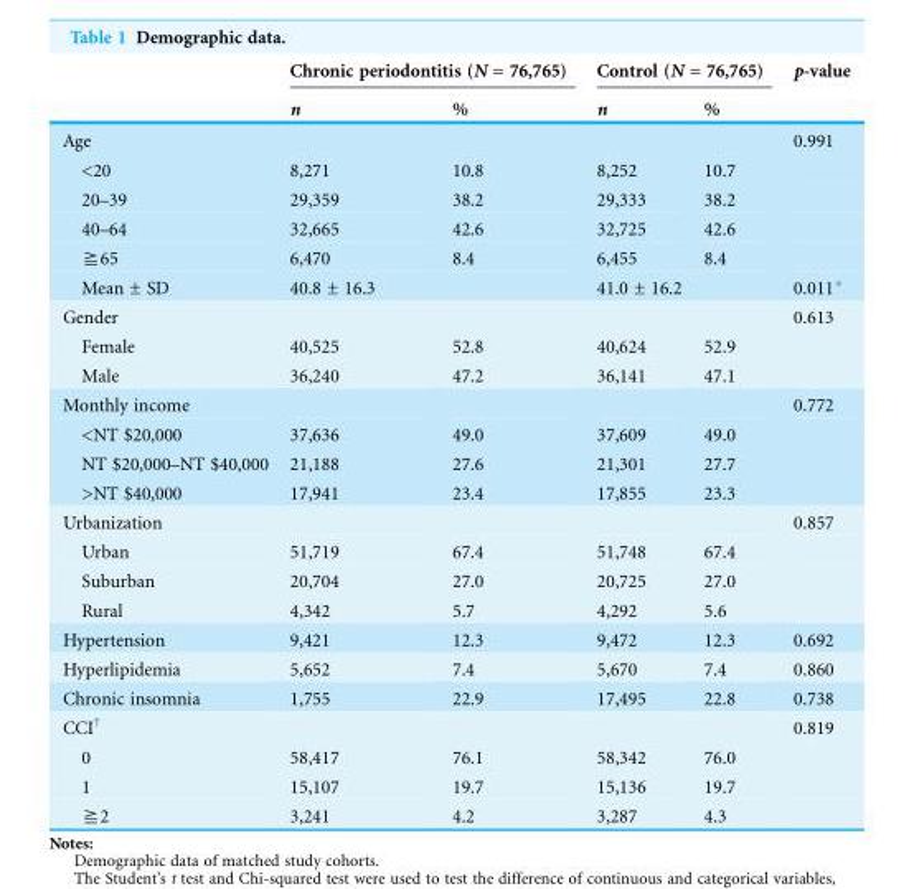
<table><thead><tr><td rowspan="2"></td><td colspan="2">Chronic periodontitis (N = 76,765)</td><td colspan="2">Control (N = 76,765)</td><td rowspan="2">p-value</td></tr><tr><td>n</td><td>%</td><td>n</td><td>%</td></tr></thead><tbody><tr><td>Age</td><td></td><td></td><td></td><td></td><td>0.991</td></tr><tr><td>&lt;20</td><td>8,271</td><td>10.8</td><td>8,252</td><td>10.7</td><td></td></tr><tr><td>20–39</td><td>29,359</td><td>38.2</td><td>29,333</td><td>38.2</td><td></td></tr><tr><td>40–64</td><td>32,665</td><td>42.6</td><td>32,725</td><td>42.6</td><td></td></tr><tr><td>≧65</td><td>6,470</td><td>8.4</td><td>6,455</td><td>8.4</td><td></td></tr><tr><td>Mean ± SD</td><td colspan="2">40.8 ± 16.3</td><td colspan="2">41.0 ± 16.2</td><td>0.011*</td></tr><tr><td>Gender</td><td></td><td></td><td></td><td></td><td>0.613</td></tr><tr><td>Female</td><td>40,525</td><td>52.8</td><td>40,624</td><td>52.9</td><td></td></tr><tr><td>Male</td><td>36,240</td><td>47.2</td><td>36,141</td><td>47.1</td><td></td></tr><tr><td>Monthly income</td><td></td><td></td><td></td><td></td><td>0.772</td></tr><tr><td>&lt;NT $20,000</td><td>37,636</td><td>49.0</td><td>37,609</td><td>49.0</td><td></td></tr><tr><td>NT $20,000–NT $40,000</td><td>21,188</td><td>27.6</td><td>21,301</td><td>27.7</td><td></td></tr><tr><td>&gt;NT $40,000</td><td>17,941</td><td>23.4</td><td>17,855</td><td>23.3</td><td></td></tr><tr><td>Urbanization</td><td></td><td></td><td></td><td></td><td>0.857</td></tr><tr><td>Urban</td><td>51,719</td><td>67.4</td><td>51,748</td><td>67.4</td><td></td></tr><tr><td>Suburban</td><td>20,704</td><td>27.0</td><td>20,725</td><td>27.0</td><td></td></tr><tr><td>Rural</td><td>4,342</td><td>5.7</td><td>4,292</td><td>5.6</td><td></td></tr><tr><td>Hypertension</td><td>9,421</td><td>12.3</td><td>9,472</td><td>12.3</td><td>0.692</td></tr><tr><td>Hyperlipidemia</td><td>5,652</td><td>7.4</td><td>5,670</td><td>7.4</td><td>0.860</td></tr><tr><td>Chronic insomnia</td><td>1,755</td><td>22.9</td><td>17,495</td><td>22.8</td><td>0.738</td></tr><tr><td>CCI<sup>†</sup></td><td></td><td></td><td></td><td></td><td>0.819</td></tr><tr><td>0</td><td>58,417</td><td>76.1</td><td>58,342</td><td>76.0</td><td></td></tr><tr><td>1</td><td>15,107</td><td>19.7</td><td>15,136</td><td>19.7</td><td></td></tr><tr><td>≧2</td><td>3,241</td><td>4.2</td><td>3,287</td><td>4.3</td><td></td></tr></tbody></table>